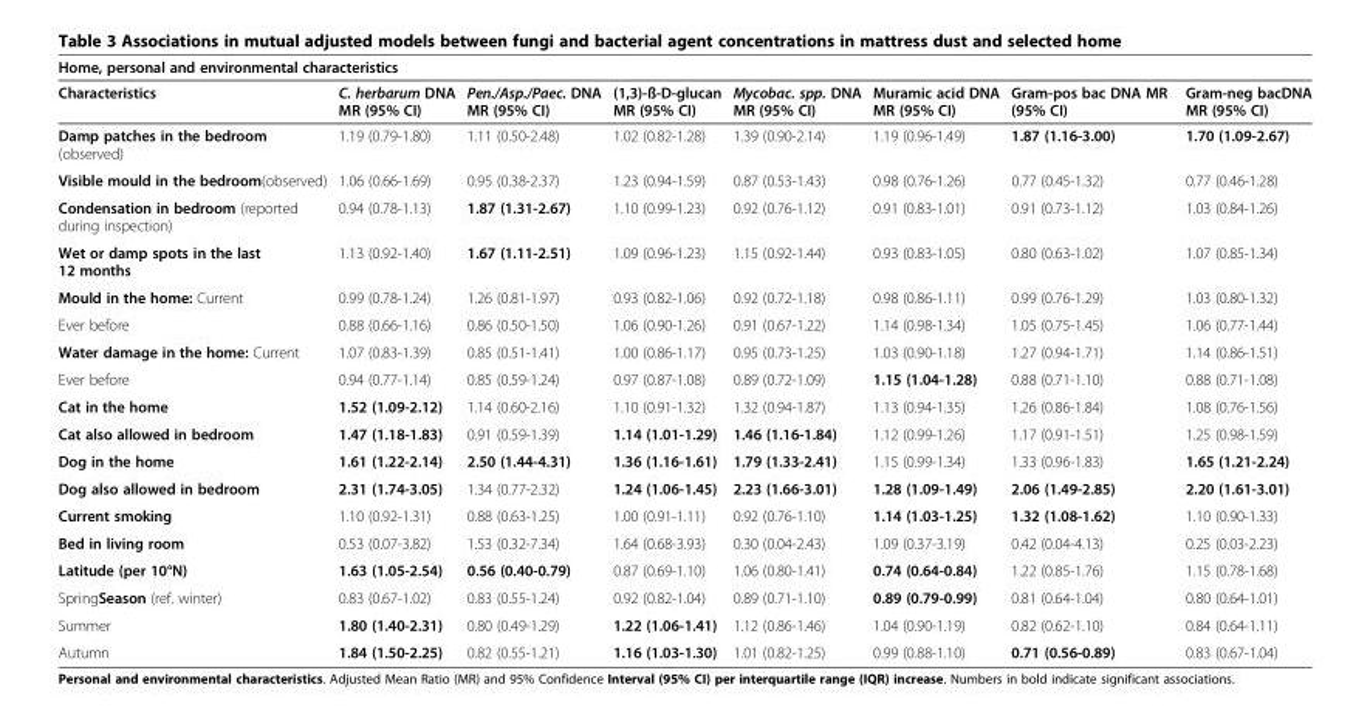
<table><thead><tr><td colspan="8">Home, personal and environmental characteristics</td></tr><tr><td>Characteristics</td><td>C. herbarum DNA MR (95% CI)</td><td>Pen./Asp./Paec. DNA MR (95% CI)</td><td>(1,3)-ß-D-glucan MR (95% CI)</td><td>Mycobac. spp. DNA MR (95% CI)</td><td>Muramic acid DNA MR (95% CI)</td><td>Gram-pos bac DNA MR (95% CI)</td><td>Gram-neg bacDNA MR (95% CI)</td></tr></thead><tbody><tr><td>Damp patches in the bedroom (observed)</td><td>1.19 (0.79-1.80)</td><td>1.11 (0.50-2.48)</td><td>1.02 (0.82-1.28)</td><td>1.39 (0.90-2.14)</td><td>1.19 (0.96-1.49)</td><td>1.87 (1.16-3.00)</td><td>1.70 (1.09-2.67)</td></tr><tr><td>Visible mould in the bedroom(observed)</td><td>1.06 (0.66-1.69)</td><td>0.95 (0.38-2.37)</td><td>1.23 (0.94-1.59)</td><td>0.87 (0.53-1.43)</td><td>0.98 (0.76-1.26)</td><td>0.77 (0.45-1.32)</td><td>0.77 (0.46-1.28)</td></tr><tr><td>Condensation in bedroom (reported during inspection)</td><td>0.94 (0.78-1.13)</td><td>1.87 (1.31-2.67)</td><td>1.10 (0.99-1.23)</td><td>0.92 (0.76-1.12)</td><td>0.91 (0.83-1.01)</td><td>0.91 (0.73-1.12)</td><td>1.03 (0.84-1.26)</td></tr><tr><td>Wet or damp spots in the last 12 months</td><td>1.13 (0.92-1.40)</td><td>1.67 (1.11-2.51)</td><td>1.09 (0.96-1.23)</td><td>1.15 (0.92-1.44)</td><td>0.93 (0.83-1.05)</td><td>0.80 (0.63-1.02)</td><td>1.07 (0.85-1.34)</td></tr><tr><td>Mould in the home: Current</td><td>0.99 (0.78-1.24)</td><td>1.26 (0.81-1.97)</td><td>0.93 (0.82-1.06)</td><td>0.92 (0.72-1.18)</td><td>0.98 (0.86-1.11)</td><td>0.99 (0.76-1.29)</td><td>1.03 (0.80-1.32)</td></tr><tr><td>Ever before</td><td>0.88 (0.66-1.16)</td><td>0.86 (0.50-1.50)</td><td>1.06 (0.90-1.26)</td><td>0.91 (0.67-1.22)</td><td>1.14 (0.98-1.34)</td><td>1.05 (0.75-1.45)</td><td>1.06 (0.77-1.44)</td></tr><tr><td>Water damage in the home: Current</td><td>1.07 (0.83-1.39)</td><td>0.85 (0.51-1.41)</td><td>1.00 (0.86-1.17)</td><td>0.95 (0.73-1.25)</td><td>1.03 (0.90-1.18)</td><td>1.27 (0.94-1.71)</td><td>1.14 (0.86-1.51)</td></tr><tr><td>Ever before</td><td>0.94 (0.77-1.14)</td><td>0.85 (0.59-1.24)</td><td>0.97 (0.87-1.08)</td><td>0.89 (0.72-1.09)</td><td>1.15 (1.04-1.28)</td><td>0.88 (0.71-1.10)</td><td>0.88 (0.71-1.08)</td></tr><tr><td>Cat in the home</td><td>1.52 (1.09-2.12)</td><td>1.14 (0.60-2.16)</td><td>1.10 (0.91-1.32)</td><td>1.32 (0.94-1.87)</td><td>1.13 (0.94-1.35)</td><td>1.26 (0.86-1.84)</td><td>1.08 (0.76-1.56)</td></tr><tr><td>Cat also allowed in bedroom</td><td>1.47 (1.18-1.83)</td><td>0.91 (0.59-1.39)</td><td>1.14 (1.01-1.29)</td><td>1.46 (1.16-1.84)</td><td>1.12 (0.99-1.26)</td><td>1.17 (0.91-1.51)</td><td>1.25 (0.98-1.59)</td></tr><tr><td>Dog in the home</td><td>1.61 (1.22-2.14)</td><td>2.50 (1.44-4.31)</td><td>1.36 (1.16-1.61)</td><td>1.79 (1.33-2.41)</td><td>1.15 (0.99-1.34)</td><td>1.33 (0.96-1.83)</td><td>1.65 (1.21-2.24)</td></tr><tr><td>Dog also allowed in bedroom</td><td>2.31 (1.74-3.05)</td><td>1.34 (0.77-2.32)</td><td>1.24 (1.06-1.45)</td><td>2.23 (1.66-3.01)</td><td>1.28 (1.09-1.49)</td><td>2.06 (1.49-2.85)</td><td>2.20 (1.61-3.01)</td></tr><tr><td>Current smoking</td><td>1.10 (0.92-1.31)</td><td>0.88 (0.63-1.25)</td><td>1.00 (0.91-1.11)</td><td>0.92 (0.76-1.10)</td><td>1.14 (1.03-1.25)</td><td>1.32 (1.08-1.62)</td><td>1.10 (0.90-1.33)</td></tr><tr><td>Bed in living room</td><td>0.53 (0.07-3.82)</td><td>1.53 (0.32-7.34)</td><td>1.64 (0.68-3.93)</td><td>0.30 (0.04-2.43)</td><td>1.09 (0.37-3.19)</td><td>0.42 (0.04-4.13)</td><td>0.25 (0.03-2.23)</td></tr><tr><td>Latitude (per 10°N)</td><td>1.63 (1.05-2.54)</td><td>0.56 (0.40-0.79)</td><td>0.87 (0.69-1.10)</td><td>1.06 (0.80-1.41)</td><td>0.74 (0.64-0.84)</td><td>1.22 (0.85-1.76)</td><td>1.15 (0.78-1.68)</td></tr><tr><td>SpringSeason (ref. winter)</td><td>0.83 (0.67-1.02)</td><td>0.83 (0.55-1.24)</td><td>0.92 (0.82-1.04)</td><td>0.89 (0.71-1.10)</td><td>0.89 (0.79-0.99)</td><td>0.81 (0.64-1.04)</td><td>0.80 (0.64-1.01)</td></tr><tr><td>Summer</td><td>1.80 (1.40-2.31)</td><td>0.80 (0.49-1.29)</td><td>1.22 (1.06-1.41)</td><td>1.12 (0.86-1.46)</td><td>1.04 (0.90-1.19)</td><td>0.82 (0.62-1.10)</td><td>0.84 (0.64-1.11)</td></tr><tr><td>Autumn</td><td>1.84 (1.50-2.25)</td><td>0.82 (0.55-1.21)</td><td>1.16 (1.03-1.30)</td><td>1.01 (0.82-1.25)</td><td>0.99 (0.88-1.10)</td><td>0.71 (0.56-0.89)</td><td>0.83 (0.67-1.04)</td></tr></tbody></table>